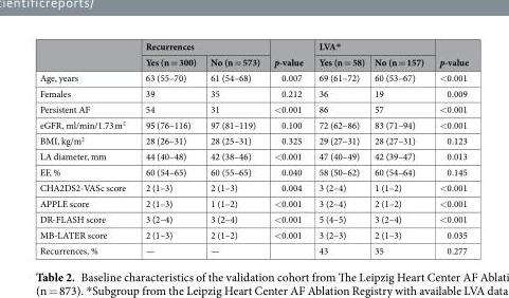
<table><thead><tr><td rowspan="2"></td><td colspan="2">Recurrences</td><td rowspan="2">p-value</td><td colspan="2">LVA*</td><td rowspan="2">p-value</td></tr><tr><td>Yes (n = 300)</td><td>No (n = 573)</td><td>Yes (n = 58)</td><td>No (n = 157)</td></tr></thead><tbody><tr><td>Age, years</td><td>63 (55–70)</td><td>61 (54–68)</td><td>0.007</td><td>69 (61–72)</td><td>60 (53–67)</td><td>&lt;0.001</td></tr><tr><td>Females</td><td>39</td><td>35</td><td>0.212</td><td>36</td><td>19</td><td>0.009</td></tr><tr><td>Persistent AF</td><td>54</td><td>31</td><td>&lt;0.001</td><td>86</td><td>57</td><td>&lt;0.001</td></tr><tr><td>eGFR, ml/min/1.73 m<sup>2</sup></td><td>95 (76–116)</td><td>97 (81–119)</td><td>0.100</td><td>72 (62–86)</td><td>83 (71–94)</td><td>&lt;0.001</td></tr><tr><td>BMI, kg/m<sup>2</sup></td><td>28 (26–31)</td><td>28 (25–31)</td><td>0.325</td><td>29 (27–31)</td><td>28 (27–31)</td><td>0.123</td></tr><tr><td>LA diameter, mm</td><td>44 (40–48)</td><td>42 (38–46)</td><td>&lt;0.001</td><td>47 (40–49)</td><td>42 (39–47)</td><td>0.013</td></tr><tr><td>EF, %</td><td>60 (54–65)</td><td>60 (55–65)</td><td>0.040</td><td>58 (50–62)</td><td>60 (54–64)</td><td>0.145</td></tr><tr><td>CHA2DS2-VASc score</td><td>2 (1–3)</td><td>2 (1–3)</td><td>0.004</td><td>3 (2–4)</td><td>1 (1–2)</td><td>&lt;0.001</td></tr><tr><td>APPLE score</td><td>2 (1–3)</td><td>1 (1–2)</td><td>&lt;0.001</td><td>3 (2–4)</td><td>2 (1–2)</td><td>&lt;0.001</td></tr><tr><td>DR-FLASH score</td><td>3 (2–4)</td><td>3 (2–4)</td><td>&lt;0.001</td><td>5 (4–5)</td><td>3 (2–4)</td><td>&lt;0.001</td></tr><tr><td>MB-LATER score</td><td>2 (1–3)</td><td>2 (1–2)</td><td>&lt;0.001</td><td>3 (2–3)</td><td>2 (1–3)</td><td>0.035</td></tr><tr><td>Recurrences, %</td><td>—</td><td>—</td><td></td><td>43</td><td>35</td><td>0.277</td></tr></tbody></table>